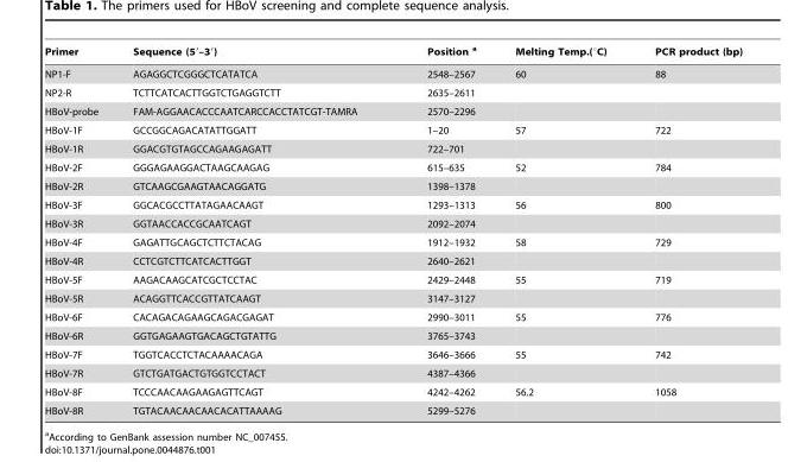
<table><thead><tr><td>Primer</td><td>Sequence (5′–3′)</td><td>Position a</td><td>Melting Temp.(°C)</td><td>PCR product (bp)</td></tr></thead><tbody><tr><td>NP1-F</td><td>AGAGGCTCGGGCTCATATCA</td><td>2548–2567</td><td>60</td><td>88</td></tr><tr><td>NP2-R</td><td>TCTTCATCACTTGGTCTGAGGTCTT</td><td>2635–2611</td><td></td><td></td></tr><tr><td>HBoV-probe</td><td>FAM-AGGAACACCCAATCARCCACCTATCGT-TAMRA</td><td>2570–2296</td><td></td><td></td></tr><tr><td>HBoV-1F</td><td>GCCGGCAGACATATTGGATT</td><td>1–20</td><td>57</td><td>722</td></tr><tr><td>HBoV-1R</td><td>GGACGTGTAGCCAGAAGAGATT</td><td>722–701</td><td></td><td></td></tr><tr><td>HBoV-2F</td><td>GGGAGAAGGACTAAGCAAGAG</td><td>615–635</td><td>52</td><td>784</td></tr><tr><td>HBoV-2R</td><td>GTCAAGCGAAGTAACAGGATG</td><td>1398–1378</td><td></td><td></td></tr><tr><td>HBoV-3F</td><td>GGCACGCCTTATAGAACAAGT</td><td>1293–1313</td><td>56</td><td>800</td></tr><tr><td>HBoV-3R</td><td>GGTAACCACCGCAATCAGT</td><td>2092–2074</td><td></td><td></td></tr><tr><td>HBoV-4F</td><td>GAGATTGCAGCTCTTCTACAG</td><td>1912–1932</td><td>58</td><td>729</td></tr><tr><td>HBoV-4R</td><td>CCTCGTCTTCATCACTTGGT</td><td>2640–2621</td><td></td><td></td></tr><tr><td>HBoV-5F</td><td>AAGACAAGCATCGCTCCTAC</td><td>2429–2448</td><td>55</td><td>719</td></tr><tr><td>HBoV-5R</td><td>ACAGGTTCACCGTTATCAAGT</td><td>3147–3127</td><td></td><td></td></tr><tr><td>HBoV-6F</td><td>CACAGACAGAAGCAGACGAGAT</td><td>2990–3011</td><td>55</td><td>776</td></tr><tr><td>HBoV-6R</td><td>GGTGAGAAGTGACAGCTGTATTG</td><td>3765–3743</td><td></td><td></td></tr><tr><td>HBoV-7F</td><td>TGGTCACCTCTACAAAACAGA</td><td>3646–3666</td><td>55</td><td>742</td></tr><tr><td>HBoV-7R</td><td>GTCTGATGACTGTGGTCCTACT</td><td>4387–4366</td><td></td><td></td></tr><tr><td>HBoV-8F</td><td>TCCCAACAAGAAGAGTTCAGT</td><td>4242–4262</td><td>56.2</td><td>1058</td></tr><tr><td>HBoV-8R</td><td>TGTACAACAACAACACATTAAAAG</td><td>5299–5276</td><td></td><td></td></tr></tbody></table>